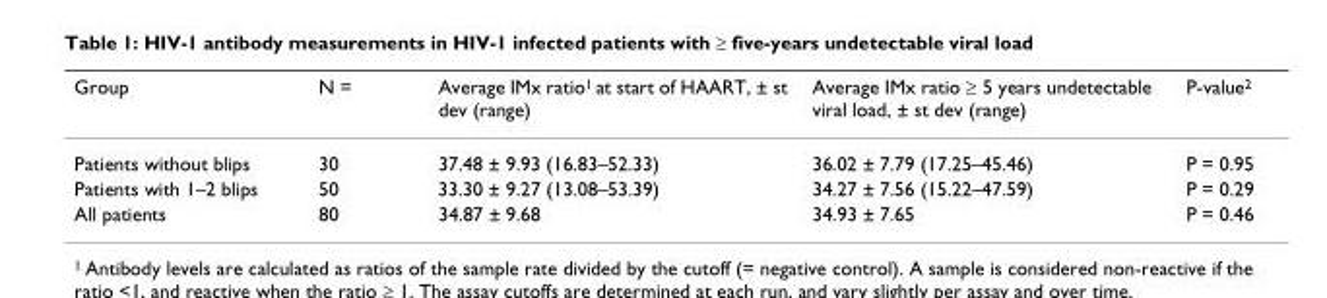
<table><thead><tr><td>Group</td><td>N =</td><td>Average IMx ratio<sup>1</sup> at start of HAART, ± st dev (range)</td><td>Average IMx ratio ≥ 5 years undetectable viral load, ± st dev (range)</td><td>P-value<sup>2</sup></td></tr></thead><tbody><tr><td>Patients without blips</td><td>30</td><td>37.48 ± 9.93 (16.83–52.33)</td><td>36.02 ± 7.79 (17.25–45.46)</td><td>P = 0.95</td></tr><tr><td>Patients with 1–2 blips</td><td>50</td><td>33.30 ± 9.27 (13.08–53.39)</td><td>34.27 ± 7.56 (15.22–47.59)</td><td>P = 0.29</td></tr><tr><td>All patients</td><td>80</td><td>34.87 ± 9.68</td><td>34.93 ± 7.65</td><td>P = 0.46</td></tr></tbody></table>